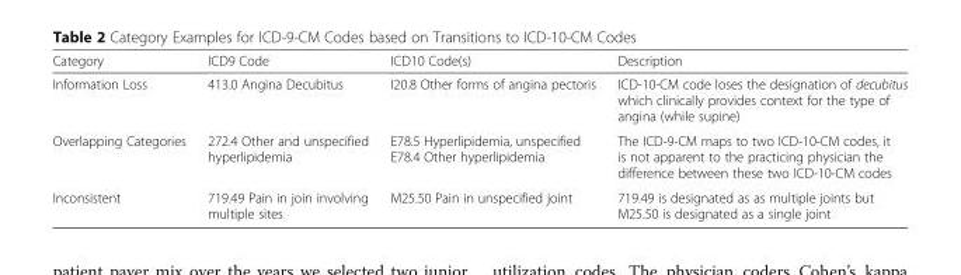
<table><thead><tr><td>Category</td><td>ICD9 Code</td><td>ICD10 Code(s)</td><td>Description</td></tr></thead><tbody><tr><td>Information Loss</td><td>413.0 Angina Decubitus</td><td>I20.8 Other forms of angina pectoris</td><td>ICD-10-CM code loses the designation of decubitus which clinically provides context for the type of angina (while supine)</td></tr><tr><td>Overlapping Categories</td><td>272.4 Other and unspecified hyperlipidemia</td><td>E78.5 Hyperlipidemia, unspecified E78.4 Other hyperlipidemia</td><td>The ICD-9-CM maps to two ICD-10-CM codes, it is not apparent to the practicing physician the difference between these two ICD-10-CM codes</td></tr><tr><td>Inconsistent</td><td>719.49 Pain in join involving multiple sites</td><td>M25.50 Pain in unspecified joint</td><td>719.49 is designated as as multiple joints but M25.50 is designated as a single joint</td></tr></tbody></table>